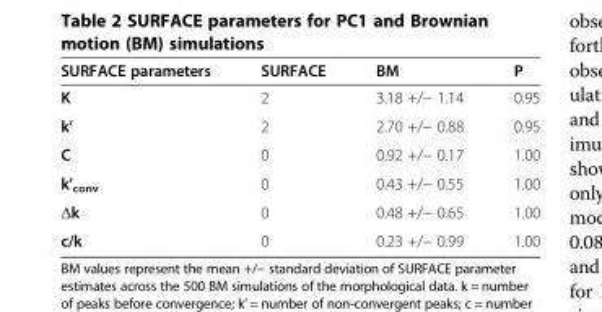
<table><thead><tr><td>SURFACE parameters</td><td>SURFACE</td><td>BM</td><td>P</td></tr></thead><tbody><tr><td>K</td><td>2</td><td>3.18 +/− 1.14</td><td>0.95</td></tr><tr><td>k’</td><td>2</td><td>2.70 +/− 0.88</td><td>0.95</td></tr><tr><td>C</td><td>0</td><td>0.92 +/− 0.17</td><td>1.00</td></tr><tr><td>k’<sub>conv</sub></td><td>0</td><td>0.43 +/− 0.55</td><td>1.00</td></tr><tr><td>Δk</td><td>0</td><td>0.48 +/− 0.65</td><td>1.00</td></tr><tr><td>c/k</td><td>0</td><td>0.23 +/− 0.99</td><td>1.00</td></tr></tbody></table>